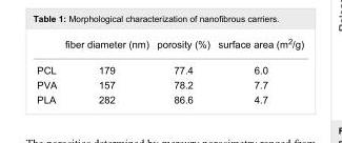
<table><thead><tr><td></td><td>fiber diameter (nm)</td><td>porosity (%)</td><td>surface area (m<sup>2</sup>/g)</td></tr></thead><tbody><tr><td>PCL</td><td>179</td><td>77.4</td><td>6.0</td></tr><tr><td>PVA</td><td>157</td><td>78.2</td><td>7.7</td></tr><tr><td>PLA</td><td>282</td><td>86.6</td><td>4.7</td></tr></tbody></table>